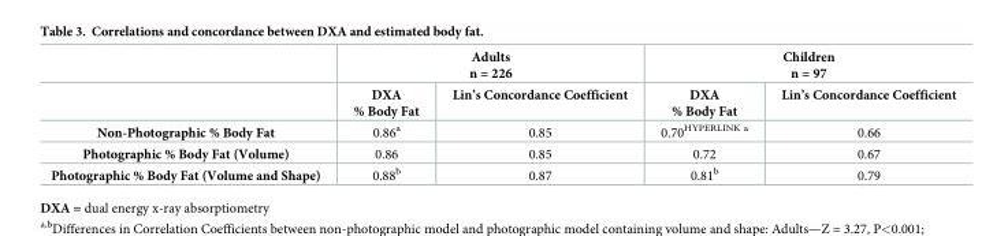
<table><thead><tr><td rowspan="2"></td><td colspan="2">Adults n = 226</td><td colspan="2">Children n = 97</td></tr><tr><td>DXA % Body Fat</td><td>Lin’s Concordance Coefficient</td><td>DXA % Body Fat</td><td>Lin’s Concordance Coefficient</td></tr></thead><tbody><tr><td>Non-Photographic % Body Fat</td><td>0.86<sup>a</sup></td><td>0.85</td><td>0.70<sup>HYPERLINK a</sup></td><td>0.66</td></tr><tr><td>Photographic % Body Fat (Volume)</td><td>0.86</td><td>0.85</td><td>0.72</td><td>0.67</td></tr><tr><td>Photographic % Body Fat (Volume and Shape)</td><td>0.88<sup>b</sup></td><td>0.87</td><td>0.81<sup>b</sup></td><td>0.79</td></tr></tbody></table>